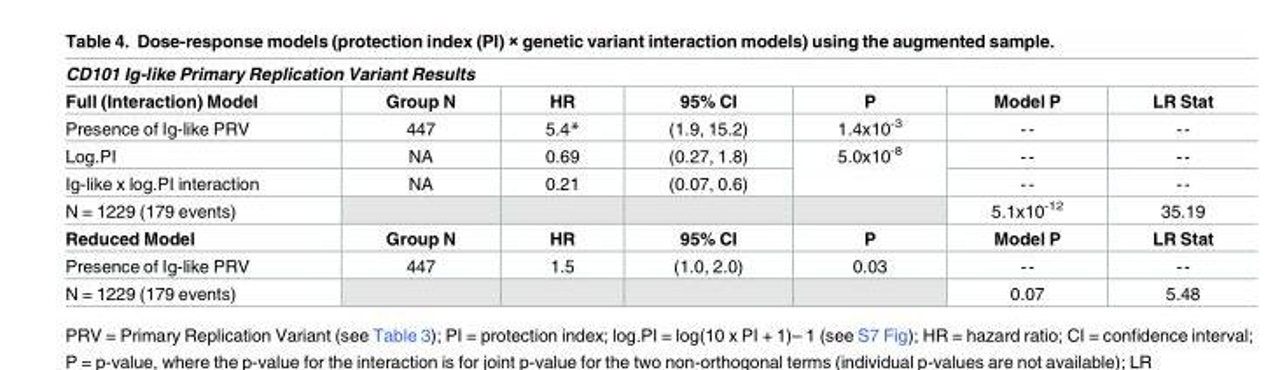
<table><thead><tr><td colspan="7">CD101 Ig-like Primary Replication Variant Results</td></tr><tr><td>Full (Interaction) Model</td><td>Group N</td><td>HR</td><td>95% CI</td><td>P</td><td>Model P</td><td>LR Stat</td></tr></thead><tbody><tr><td>Presence of Ig-like PRV</td><td>447</td><td>5.4*</td><td>(1.9, 15.2)</td><td>1.4x10<sup>-3</sup></td><td>--</td><td>--</td></tr><tr><td>Log.PI</td><td>NA</td><td>0.69</td><td>(0.27, 1.8)</td><td rowspan="2">5.0x10<sup>-8</sup></td><td>--</td><td>--</td></tr><tr><td>Ig-like x log.PI interaction</td><td>NA</td><td>0.21</td><td>(0.07, 0.6)</td><td>--</td><td>--</td></tr><tr><td>N = 1229 (179 events)</td><td></td><td></td><td></td><td></td><td>5.1x10<sup>-12</sup></td><td>35.19</td></tr><tr><td>Reduced Model</td><td>Group N</td><td>HR</td><td>95% CI</td><td>P</td><td>Model P</td><td>LR Stat</td></tr><tr><td>Presence of Ig-like PRV</td><td>447</td><td>1.5</td><td>(1.0, 2.0)</td><td>0.03</td><td>--</td><td>--</td></tr><tr><td>N = 1229 (179 events)</td><td></td><td></td><td></td><td></td><td>0.07</td><td>5.48</td></tr></tbody></table>